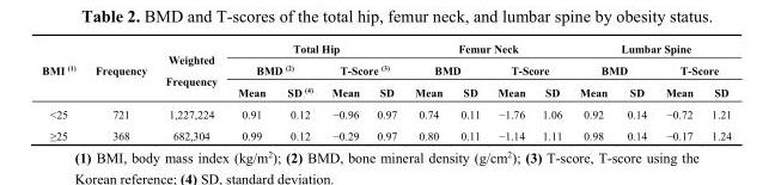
<table><thead><tr><td rowspan="3">BMI <sup>(1)</sup></td><td rowspan="3">Frequency</td><td rowspan="3">Weighted Frequency</td><td colspan="4">Total Hip</td><td colspan="4">Femur Neck</td><td colspan="4">Lumbar Spine</td></tr><tr><td colspan="2">BMD <sup>(2)</sup></td><td colspan="2">T-Score <sup>(3)</sup></td><td colspan="2">BMD</td><td colspan="2">T-Score</td><td colspan="2">BMD</td><td colspan="2">T-Score</td></tr><tr><td>Mean</td><td>SD <sup>(4)</sup></td><td>Mean</td><td>SD</td><td>Mean</td><td>SD</td><td>Mean</td><td>SD</td><td>Mean</td><td>SD</td><td>Mean</td><td>SD</td></tr></thead><tbody><tr><td>&lt;25</td><td>721</td><td>1,227,224</td><td>0.91</td><td>0.12</td><td>−0.96</td><td>0.97</td><td>0.74</td><td>0.11</td><td>−1.76</td><td>1.06</td><td>0.92</td><td>0.14</td><td>−0.72</td><td>1.21</td></tr><tr><td>≥25</td><td>368</td><td>682,304</td><td>0.99</td><td>0.12</td><td>−0.29</td><td>0.97</td><td>0.80</td><td>0.11</td><td>−1.14</td><td>1.11</td><td>0.98</td><td>0.14</td><td>−0.17</td><td>1.24</td></tr></tbody></table>